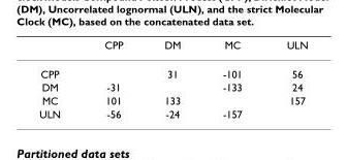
<table><thead><tr><td></td><td>CPP</td><td>DM</td><td>MC</td><td>ULN</td></tr></thead><tbody><tr><td>CPP</td><td></td><td>31</td><td>-101</td><td>56</td></tr><tr><td>DM</td><td>-31</td><td></td><td>-133</td><td>24</td></tr><tr><td>MC</td><td>101</td><td>133</td><td></td><td>157</td></tr><tr><td>ULN</td><td>-56</td><td>-24</td><td>-157</td><td></td></tr></tbody></table>